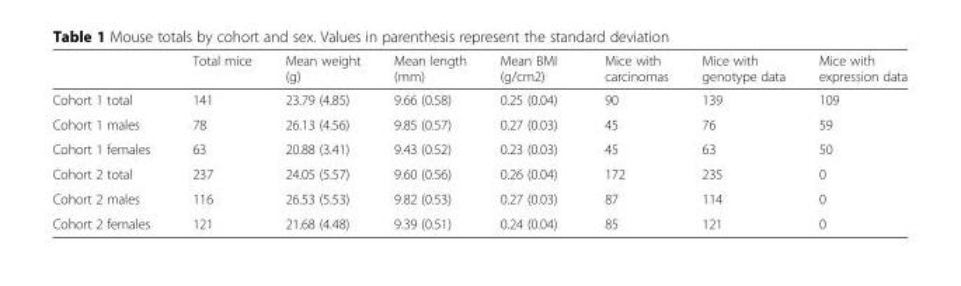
<table><thead><tr><td></td><td>Total mice</td><td>Mean weight (g)</td><td>Mean length (mm)</td><td>Mean BMI (g/cm2)</td><td>Mice with carcinomas</td><td>Mice with genotype data</td><td>Mice with expression data</td></tr></thead><tbody><tr><td>Cohort 1 total</td><td>141</td><td>23.79 (4.85)</td><td>9.66 (0.58)</td><td>0.25 (0.04)</td><td>90</td><td>139</td><td>109</td></tr><tr><td>Cohort 1 males</td><td>78</td><td>26.13 (4.56)</td><td>9.85 (0.57)</td><td>0.27 (0.03)</td><td>45</td><td>76</td><td>59</td></tr><tr><td>Cohort 1 females</td><td>63</td><td>20.88 (3.41)</td><td>9.43 (0.52)</td><td>0.23 (0.03)</td><td>45</td><td>63</td><td>50</td></tr><tr><td>Cohort 2 total</td><td>237</td><td>24.05 (5.57)</td><td>9.60 (0.56)</td><td>0.26 (0.04)</td><td>172</td><td>235</td><td>0</td></tr><tr><td>Cohort 2 males</td><td>116</td><td>26.53 (5.53)</td><td>9.82 (0.53)</td><td>0.27 (0.03)</td><td>87</td><td>114</td><td>0</td></tr><tr><td>Cohort 2 females</td><td>121</td><td>21.68 (4.48)</td><td>9.39 (0.51)</td><td>0.24 (0.04)</td><td>85</td><td>121</td><td>0</td></tr></tbody></table>